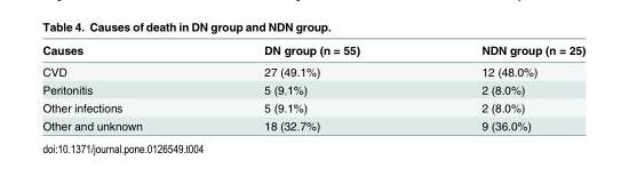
<table><thead><tr><td>Causes</td><td>DN group (n = 55)</td><td>NDN group (n = 25)</td></tr></thead><tbody><tr><td>CVD</td><td>27 (49.1%)</td><td>12 (48.0%)</td></tr><tr><td>Peritonitis</td><td>5 (9.1%)</td><td>2 (8.0%)</td></tr><tr><td>Other infections</td><td>5 (9.1%)</td><td>2 (8.0%)</td></tr><tr><td>Other and unknown</td><td>18 (32.7%)</td><td>9 (36.0%)</td></tr></tbody></table>